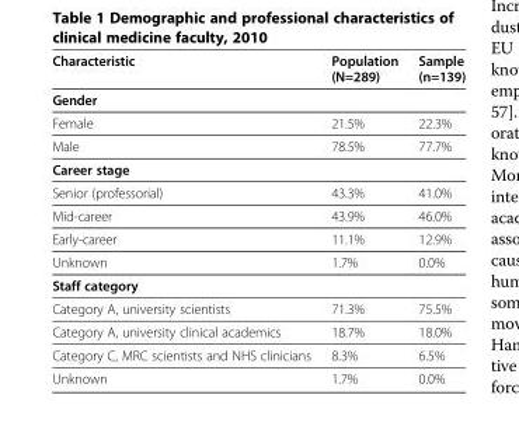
<table><thead><tr><td>Characteristic</td><td>Population (N=289)</td><td>Sample (n=139)</td></tr></thead><tbody><tr><td colspan="3">Gender</td></tr><tr><td>Female</td><td>21.5%</td><td>22.3%</td></tr><tr><td>Male</td><td>78.5%</td><td>77.7%</td></tr><tr><td colspan="3">Career stage</td></tr><tr><td>Senior (professorial)</td><td>43.3%</td><td>41.0%</td></tr><tr><td>Mid-career</td><td>43.9%</td><td>46.0%</td></tr><tr><td>Early-career</td><td>11.1%</td><td>12.9%</td></tr><tr><td>Unknown</td><td>1.7%</td><td>0.0%</td></tr><tr><td colspan="3">Staff category</td></tr><tr><td>Category A, university scientists</td><td>71.3%</td><td>75.5%</td></tr><tr><td>Category A, university clinical academics</td><td>18.7%</td><td>18.0%</td></tr><tr><td>Category C, MRC scientists and NHS clinicians</td><td>8.3%</td><td>6.5%</td></tr><tr><td>Unknown</td><td>1.7%</td><td>0.0%</td></tr></tbody></table>